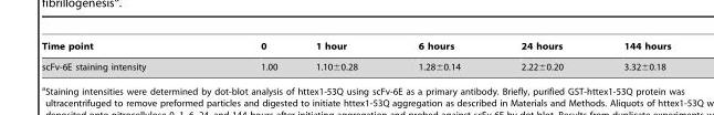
<table><thead><tr><td>Time point</td><td>0</td><td>1 hour</td><td>6 hours</td><td>24 hours</td><td>144 hours</td></tr></thead><tbody><tr><td>scFv-6E staining intensity</td><td>1.00</td><td>1.10±0.28</td><td>1.28±0.14</td><td>2.22±0.20</td><td>3.32±0.18</td></tr></tbody></table>